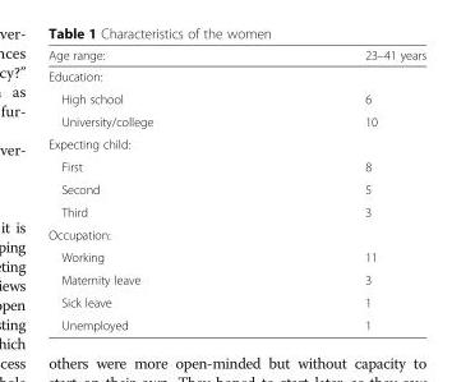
<table><thead><tr><td>Age range:</td><td>23–41 years</td></tr></thead><tbody><tr><td colspan="2">Education:</td></tr><tr><td>High school</td><td>6</td></tr><tr><td>University/college</td><td>10</td></tr><tr><td colspan="2">Expecting child:</td></tr><tr><td>First</td><td>8</td></tr><tr><td>Second</td><td>5</td></tr><tr><td>Third</td><td>3</td></tr><tr><td colspan="2">Occupation:</td></tr><tr><td>Working</td><td>11</td></tr><tr><td>Maternity leave</td><td>3</td></tr><tr><td>Sick leave</td><td>1</td></tr><tr><td>Unemployed</td><td>1</td></tr></tbody></table>